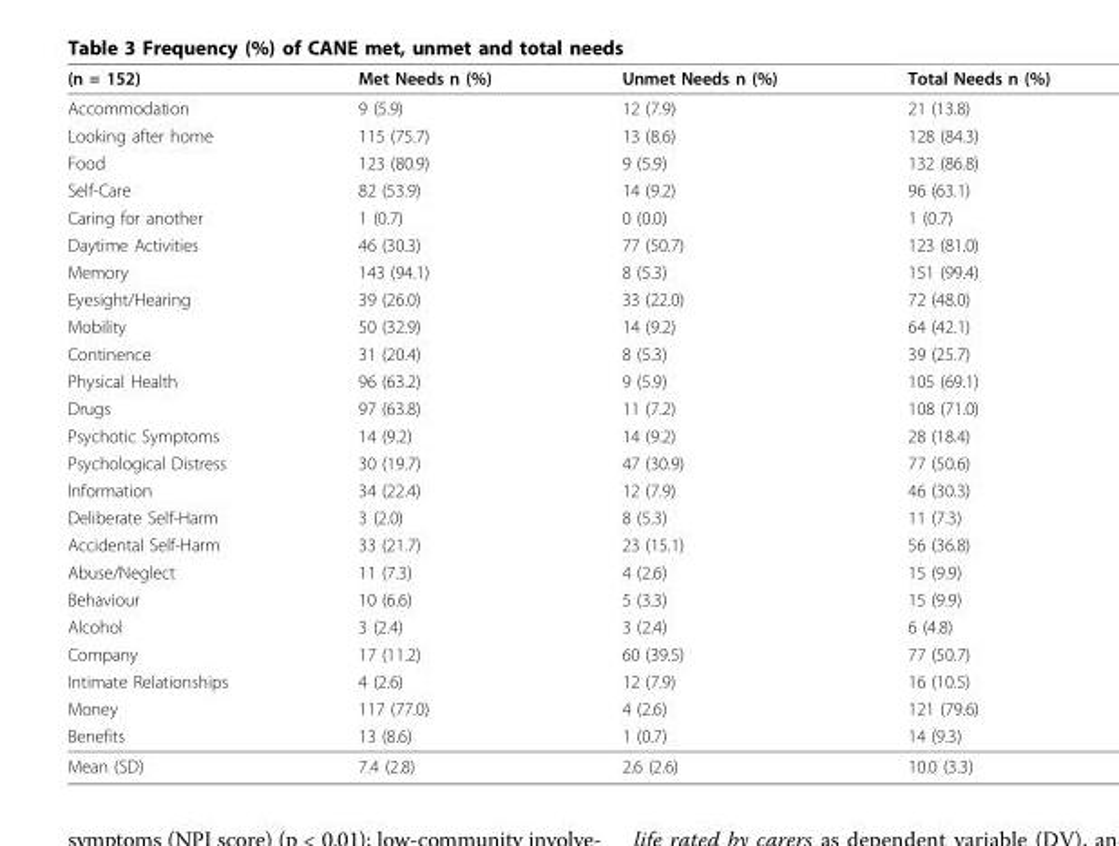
<table><thead><tr><td>(n = 152)</td><td>Met Needs n (%)</td><td>Unmet Needs n (%)</td><td>Total Needs n (%)</td></tr></thead><tbody><tr><td>Accommodation</td><td>9 (5.9)</td><td>12 (7.9)</td><td>21 (13.8)</td></tr><tr><td>Looking after home</td><td>115 (75.7)</td><td>13 (8.6)</td><td>128 (84.3)</td></tr><tr><td>Food</td><td>123 (80.9)</td><td>9 (5.9)</td><td>132 (86.8)</td></tr><tr><td>Self-Care</td><td>82 (53.9)</td><td>14 (9.2)</td><td>96 (63.1)</td></tr><tr><td>Caring for another</td><td>1 (0.7)</td><td>0 (0.0)</td><td>1 (0.7)</td></tr><tr><td>Daytime Activities</td><td>46 (30.3)</td><td>77 (50.7)</td><td>123 (81.0)</td></tr><tr><td>Memory</td><td>143 (94.1)</td><td>8 (5.3)</td><td>151 (99.4)</td></tr><tr><td>Eyesight/Hearing</td><td>39 (26.0)</td><td>33 (22.0)</td><td>72 (48.0)</td></tr><tr><td>Mobility</td><td>50 (32.9)</td><td>14 (9.2)</td><td>64 (42.1)</td></tr><tr><td>Continence</td><td>31 (20.4)</td><td>8 (5.3)</td><td>39 (25.7)</td></tr><tr><td>Physical Health</td><td>96 (63.2)</td><td>9 (5.9)</td><td>105 (69.1)</td></tr><tr><td>Drugs</td><td>97 (63.8)</td><td>11 (7.2)</td><td>108 (71.0)</td></tr><tr><td>Psychotic Symptoms</td><td>14 (9.2)</td><td>14 (9.2)</td><td>28 (18.4)</td></tr><tr><td>Psychological Distress</td><td>30 (19.7)</td><td>47 (30.9)</td><td>77 (50.6)</td></tr><tr><td>Information</td><td>34 (22.4)</td><td>12 (7.9)</td><td>46 (30.3)</td></tr><tr><td>Deliberate Self-Harm</td><td>3 (2.0)</td><td>8 (5.3)</td><td>11 (7.3)</td></tr><tr><td>Accidental Self-Harm</td><td>33 (21.7)</td><td>23 (15.1)</td><td>56 (36.8)</td></tr><tr><td>Abuse/Neglect</td><td>11 (7.3)</td><td>4 (2.6)</td><td>15 (9.9)</td></tr><tr><td>Behaviour</td><td>10 (6.6)</td><td>5 (3.3)</td><td>15 (9.9)</td></tr><tr><td>Alcohol</td><td>3 (2.4)</td><td>3 (2.4)</td><td>6 (4.8)</td></tr><tr><td>Company</td><td>17 (11.2)</td><td>60 (39.5)</td><td>77 (50.7)</td></tr><tr><td>Intimate Relationships</td><td>4 (2.6)</td><td>12 (7.9)</td><td>16 (10.5)</td></tr><tr><td>Money</td><td>117 (77.0)</td><td>4 (2.6)</td><td>121 (79.6)</td></tr><tr><td>Benefits</td><td>13 (8.6)</td><td>1 (0.7)</td><td>14 (9.3)</td></tr><tr><td>Mean (SD)</td><td>7.4 (2.8)</td><td>2.6 (2.6)</td><td>10.0 (3.3)</td></tr></tbody></table>